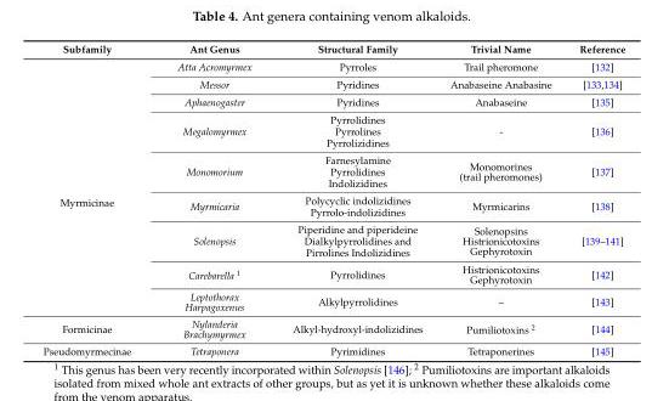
<table><thead><tr><td>Subfamily</td><td>Ant Genus</td><td>Structural Family</td><td>Trivial Name</td><td>Reference</td></tr></thead><tbody><tr><td rowspan="9">Myrmicinae</td><td>Atta Acromyrmex</td><td>Pyrroles</td><td>Trail pheromone</td><td>[132]</td></tr><tr><td>Messor</td><td>Pyridines</td><td>Anabaseine Anabasine</td><td>[133,134]</td></tr><tr><td>Aphaenogaster</td><td>Pyridines</td><td>Anabaseine</td><td>[135]</td></tr><tr><td>Megalomyrmex</td><td>Pyrrolidines Pyrrolines Pyrrolizidines</td><td>-</td><td>[136]</td></tr><tr><td>Monomorium</td><td>Farnesylamine Pyrrolidines Indolizidines</td><td>Monomorines (trail pheromones)</td><td>[137]</td></tr><tr><td>Myrmicaria</td><td>Polycyclic indolizidines Pyrrolo-indolizidines</td><td>Myrmicarins</td><td>[138]</td></tr><tr><td>Solenopsis</td><td>Piperidine and piperideine Dialkylpyrrolidines and Pirrolines Indolizidines</td><td>Solenopsins Histrionicotoxins Gephyrotoxin</td><td>[139–141]</td></tr><tr><td>Carebarella <sup>1</sup></td><td>Pyrrolidines</td><td>Histrionicotoxins Gephyrotoxin</td><td>[142]</td></tr><tr><td>Leptothorax Harpagoxenus</td><td>Alkylpyrrolidines</td><td>–</td><td>[143]</td></tr><tr><td>Formicinae</td><td>Nylanderia Brachymyrmex</td><td>Alkyl-hydroxyl-indolizidines</td><td>Pumiliotoxins <sup>2</sup></td><td>[144]</td></tr><tr><td>Pseudomyrmecinae</td><td>Tetraponera</td><td>Pyrimidines</td><td>Tetraponerines</td><td>[145]</td></tr></tbody></table>